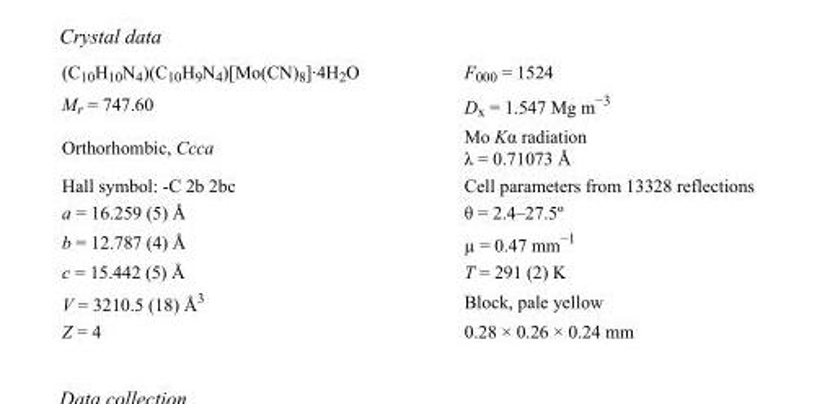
<table><tbody><tr><td>(C<sub>10</sub>H<sub>10</sub>N<sub>4</sub>)(C<sub>10</sub>H<sub>9</sub>N<sub>4</sub>)[Mo(CN)<sub>8</sub>]·4H<sub>2</sub>O</td><td>F<sub>000</sub> = 1524</td></tr><tr><td>M<sub>r</sub> = 747.60</td><td>D<sub>x</sub> = 1.547 Mg m<sup>−3</sup></td></tr><tr><td>Orthorhombic, Ccca</td><td>Mo Kα radiation λ = 0.71073 Å</td></tr><tr><td>Hall symbol: -C 2b 2bc</td><td>Cell parameters from 13328 reflections</td></tr><tr><td>a = 16.259 (5) Å</td><td>θ = 2.4–27.5º</td></tr><tr><td>b = 12.787 (4) Å</td><td>µ = 0.47 mm<sup>−1</sup></td></tr><tr><td>c = 15.442 (5) Å</td><td>T = 291 (2) K</td></tr><tr><td>V = 3210.5 (18) Å<sup>3</sup></td><td>Block, pale yellow</td></tr><tr><td>Z = 4</td><td>0.28 × 0.26 × 0.24 mm</td></tr></tbody></table>